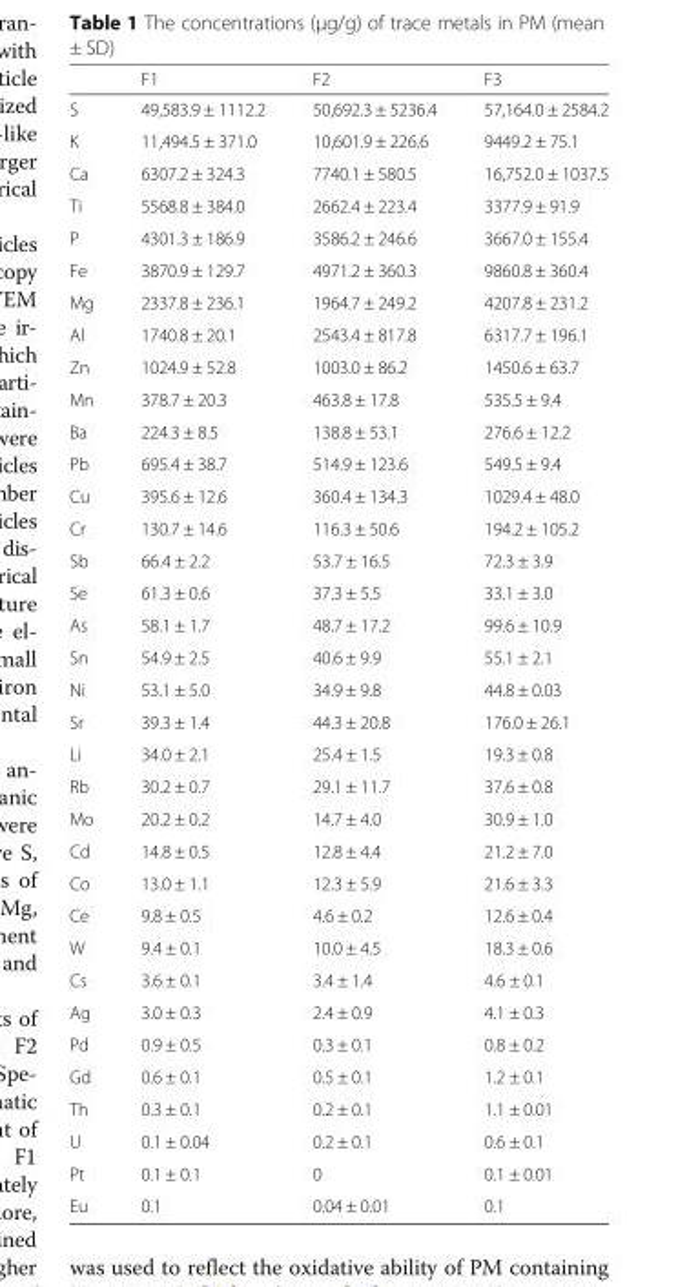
<table><thead><tr><td></td><td>F1</td><td>F2</td><td>F3</td></tr></thead><tbody><tr><td>S</td><td>49,583.9 ± 1112.2</td><td>50,692.3 ± 5236.4</td><td>57,164.0 ± 2584.2</td></tr><tr><td>K</td><td>11,494.5 ± 371.0</td><td>10,601.9 ± 226.6</td><td>9449.2 ± 75.1</td></tr><tr><td>Ca</td><td>6307.2 ± 324.3</td><td>7740.1 ± 580.5</td><td>16,752.0 ± 1037.5</td></tr><tr><td>Ti</td><td>5568.8 ± 384.0</td><td>2662.4 ± 223.4</td><td>3377.9 ± 91.9</td></tr><tr><td>P</td><td>4301.3 ± 186.9</td><td>3586.2 ± 246.6</td><td>3667.0 ± 155.4</td></tr><tr><td>Fe</td><td>3870.9 ± 129.7</td><td>4971.2 ± 360.3</td><td>9860.8 ± 360.4</td></tr><tr><td>Mg</td><td>2337.8 ± 236.1</td><td>1964.7 ± 249.2</td><td>4207.8 ± 231.2</td></tr><tr><td>Al</td><td>1740.8 ± 20.1</td><td>2543.4 ± 817.8</td><td>6317.7 ± 196.1</td></tr><tr><td>Zn</td><td>1024.9 ± 52.8</td><td>1003.0 ± 86.2</td><td>1450.6 ± 63.7</td></tr><tr><td>Mn</td><td>378.7 ± 20.3</td><td>463.8 ± 17.8</td><td>535.5 ± 9.4</td></tr><tr><td>Ba</td><td>224.3 ± 8.5</td><td>138.8 ± 53.1</td><td>276.6 ± 12.2</td></tr><tr><td>Pb</td><td>695.4 ± 38.7</td><td>514.9 ± 123.6</td><td>549.5 ± 9.4</td></tr><tr><td>Cu</td><td>395.6 ± 12.6</td><td>360.4 ± 134.3</td><td>1029.4 ± 48.0</td></tr><tr><td>Cr</td><td>130.7 ± 14.6</td><td>116.3 ± 50.6</td><td>194.2 ± 105.2</td></tr><tr><td>Sb</td><td>66.4 ± 2.2</td><td>53.7 ± 16.5</td><td>72.3 ± 3.9</td></tr><tr><td>Se</td><td>61.3 ± 0.6</td><td>37.3 ± 5.5</td><td>33.1 ± 3.0</td></tr><tr><td>As</td><td>58.1 ± 1.7</td><td>48.7 ± 17.2</td><td>99.6 ± 10.9</td></tr><tr><td>Sn</td><td>54.9 ± 2.5</td><td>40.6 ± 9.9</td><td>55.1 ± 2.1</td></tr><tr><td>Ni</td><td>53.1 ± 5.0</td><td>34.9 ± 9.8</td><td>44.8 ± 0.03</td></tr><tr><td>Sr</td><td>39.3 ± 1.4</td><td>44.3 ± 20.8</td><td>176.0 ± 26.1</td></tr><tr><td>Li</td><td>34.0 ± 2.1</td><td>25.4 ± 1.5</td><td>19.3 ± 0.8</td></tr><tr><td>Rb</td><td>30.2 ± 0.7</td><td>29.1 ± 11.7</td><td>37.6 ± 0.8</td></tr><tr><td>Mo</td><td>20.2 ± 0.2</td><td>14.7 ± 4.0</td><td>30.9 ± 1.0</td></tr><tr><td>Cd</td><td>14.8 ± 0.5</td><td>12.8 ± 4.4</td><td>21.2 ± 7.0</td></tr><tr><td>Co</td><td>13.0 ± 1.1</td><td>12.3 ± 5.9</td><td>21.6 ± 3.3</td></tr><tr><td>Ce</td><td>9.8 ± 0.5</td><td>4.6 ± 0.2</td><td>12.6 ± 0.4</td></tr><tr><td>W</td><td>9.4 ± 0.1</td><td>10.0 ± 4.5</td><td>18.3 ± 0.6</td></tr><tr><td>Cs</td><td>3.6 ± 0.1</td><td>3.4 ± 1.4</td><td>4.6 ± 0.1</td></tr><tr><td>Ag</td><td>3.0 ± 0.3</td><td>2.4 ± 0.9</td><td>4.1 ± 0.3</td></tr><tr><td>Pd</td><td>0.9 ± 0.5</td><td>0.3 ± 0.1</td><td>0.8 ± 0.2</td></tr><tr><td>Gd</td><td>0.6 ± 0.1</td><td>0.5 ± 0.1</td><td>1.2 ± 0.1</td></tr><tr><td>Th</td><td>0.3 ± 0.1</td><td>0.2 ± 0.1</td><td>1.1 ± 0.01</td></tr><tr><td>U</td><td>0.1 ± 0.04</td><td>0.2 ± 0.1</td><td>0.6 ± 0.1</td></tr><tr><td>Pt</td><td>0.1 ± 0.1</td><td>0</td><td>0.1 ± 0.01</td></tr><tr><td>Eu</td><td>0.1</td><td>0.04 ± 0.01</td><td>0.1</td></tr></tbody></table>